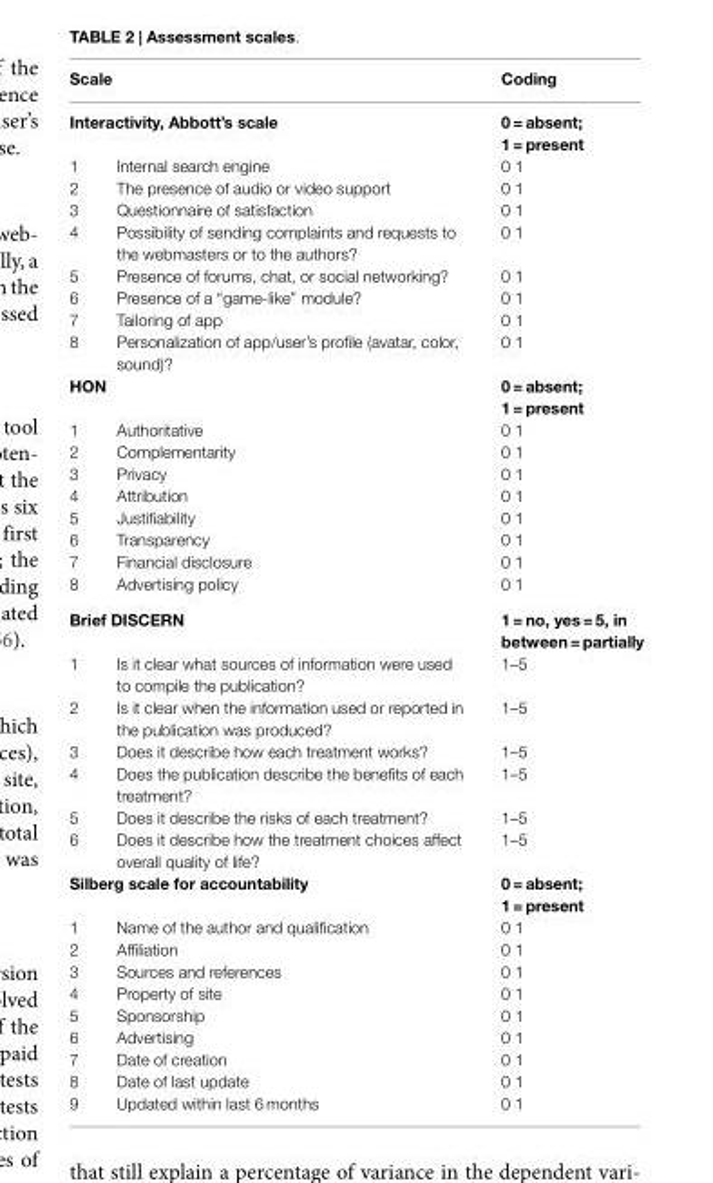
<table><thead><tr><td rowspan="2" colspan="2">Scale Interactivity, Abbott’s scale</td><td rowspan="3">Coding 0 = absent; 1 = present 0 1</td></tr><tr></tr><tr><td>1</td><td>Internal search engine</td></tr></thead><tbody><tr><td>2</td><td>The presence of audio or video support</td><td>0 1</td></tr><tr><td>3</td><td>Questionnaire of satisfaction</td><td>0 1</td></tr><tr><td>4</td><td>Possibility of sending complaints and requests to the webmasters or to the authors?</td><td>0 1</td></tr><tr><td>5</td><td>Presence of forums, chat, or social networking?</td><td>0 1</td></tr><tr><td>6</td><td>Presence of a “game-like” module?</td><td>0 1</td></tr><tr><td>7</td><td>Tailoring of app</td><td>0 1</td></tr><tr><td>8</td><td>Personalization of app/user’s profile (avatar, color, sound)?</td><td>0 1</td></tr><tr><td colspan="2">HON</td><td>0 = absent; 1 = present</td></tr><tr><td>1</td><td>Authoritative</td><td>0 1</td></tr><tr><td>2</td><td>Complementarity</td><td>0 1</td></tr><tr><td>3</td><td>Privacy</td><td>0 1</td></tr><tr><td>4</td><td>Attribution</td><td>0 1</td></tr><tr><td>5</td><td>Justifiability</td><td>0 1</td></tr><tr><td>6</td><td>Transparency</td><td>0 1</td></tr><tr><td>7</td><td>Financial disclosure</td><td>0 1</td></tr><tr><td>8</td><td>Advertising policy</td><td>0 1</td></tr><tr><td colspan="2">Brief DISCERN</td><td>1 = no, yes = 5, in between = partially</td></tr><tr><td>1</td><td>Is it clear what sources of information were used to compile the publication?</td><td>1–5</td></tr><tr><td>2</td><td>Is it clear when the information used or reported in the publication was produced?</td><td>1–5</td></tr><tr><td>3</td><td>Does it describe how each treatment works?</td><td>1–5</td></tr><tr><td>4</td><td>Does the publication describe the benefits of each treatment?</td><td>1–5</td></tr><tr><td>5</td><td>Does it describe the risks of each treatment?</td><td>1–5</td></tr><tr><td>6</td><td>Does it describe how the treatment choices affect overall quality of life?</td><td>1–5</td></tr><tr><td colspan="2">Silberg scale for accountability</td><td>0 = absent; 1 = present</td></tr><tr><td>1</td><td>Name of the author and qualification</td><td>0 1</td></tr><tr><td>2</td><td>Affiliation</td><td>0 1</td></tr><tr><td>3</td><td>Sources and references</td><td>0 1</td></tr><tr><td>4</td><td>Property of site</td><td>0 1</td></tr><tr><td>5</td><td>Sponsorship</td><td>0 1</td></tr><tr><td>6</td><td>Advertising</td><td>0 1</td></tr><tr><td>7</td><td>Date of creation</td><td>0 1</td></tr><tr><td>8</td><td>Date of last update</td><td>0 1</td></tr><tr><td>9</td><td>Updated within last 6 months</td><td>0 1</td></tr></tbody></table>